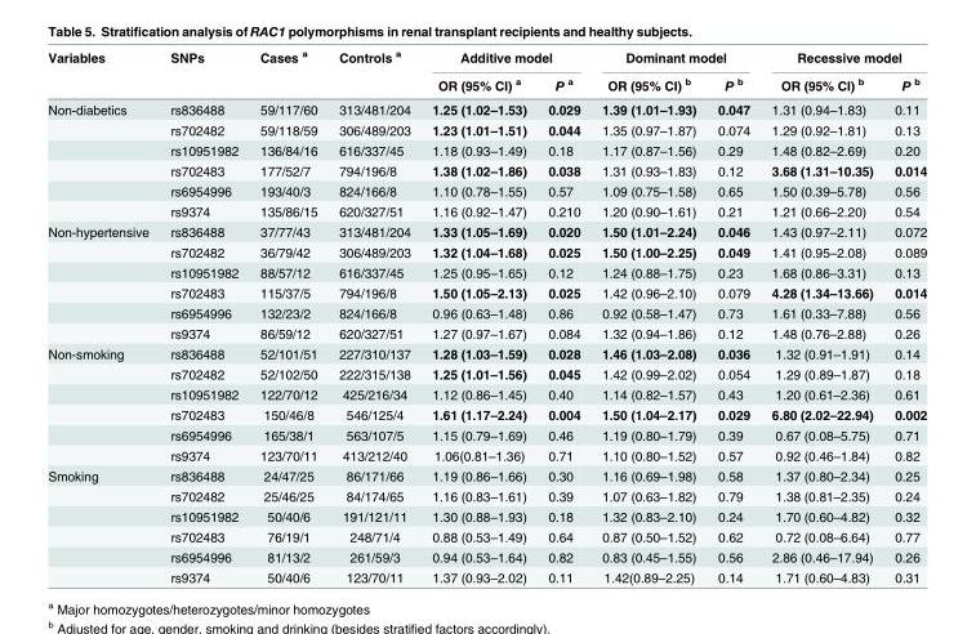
<table><thead><tr><td rowspan="2">Variables</td><td rowspan="2">SNPs</td><td rowspan="2">Cases <sup>a</sup></td><td rowspan="2">Controls <sup>a</sup></td><td colspan="2">Additive model</td><td colspan="2">Dominant model</td><td colspan="2">Recessive model</td></tr><tr><td>OR (95% CI) <sup>a</sup></td><td>P <sup>a</sup></td><td>OR (95% CI) <sup>b</sup></td><td>P <sup>b</sup></td><td>OR (95% CI) <sup>b</sup></td><td>P <sup>b</sup></td></tr></thead><tbody><tr><td rowspan="6">Non-diabetics</td><td>rs836488</td><td>59/117/60</td><td>313/481/204</td><td>1.25 (1.02–1.53)</td><td>0.029</td><td>1.39 (1.01–1.93)</td><td>0.047</td><td>1.31 (0.94–1.83)</td><td>0.11</td></tr><tr><td>rs702482</td><td>59/118/59</td><td>306/489/203</td><td>1.23 (1.01–1.51)</td><td>0.044</td><td>1.35 (0.97–1.87)</td><td>0.074</td><td>1.29 (0.92–1.81)</td><td>0.13</td></tr><tr><td>rs10951982</td><td>136/84/16</td><td>616/337/45</td><td>1.18 (0.93–1.49)</td><td>0.18</td><td>1.17 (0.87–1.56)</td><td>0.29</td><td>1.48 (0.82–2.69)</td><td>0.20</td></tr><tr><td>rs702483</td><td>177/52/7</td><td>794/196/8</td><td>1.38 (1.02–1.86)</td><td>0.038</td><td>1.31 (0.93–1.83)</td><td>0.12</td><td>3.68 (1.31–10.35)</td><td>0.014</td></tr><tr><td>rs6954996</td><td>193/40/3</td><td>824/166/8</td><td>1.10 (0.78–1.55)</td><td>0.57</td><td>1.09 (0.75–1.58)</td><td>0.65</td><td>1.50 (0.39–5.78)</td><td>0.56</td></tr><tr><td>rs9374</td><td>135/86/15</td><td>620/327/51</td><td>1.16 (0.92–1.47)</td><td>0.210</td><td>1.20 (0.90–1.61)</td><td>0.21</td><td>1.21 (0.66–2.20)</td><td>0.54</td></tr><tr><td rowspan="6">Non-hypertensive</td><td>rs836488</td><td>37/77/43</td><td>313/481/204</td><td>1.33 (1.05–1.69)</td><td>0.020</td><td>1.50 (1.01–2.24)</td><td>0.046</td><td>1.43 (0.97–2.11)</td><td>0.072</td></tr><tr><td>rs702482</td><td>36/79/42</td><td>306/489/203</td><td>1.32 (1.04–1.68)</td><td>0.025</td><td>1.50 (1.00–2.25)</td><td>0.049</td><td>1.41 (0.95–2.08)</td><td>0.089</td></tr><tr><td>rs10951982</td><td>88/57/12</td><td>616/337/45</td><td>1.25 (0.95–1.65)</td><td>0.12</td><td>1.24 (0.88–1.75)</td><td>0.23</td><td>1.68 (0.86–3.31)</td><td>0.13</td></tr><tr><td>rs702483</td><td>115/37/5</td><td>794/196/8</td><td>1.50 (1.05–2.13)</td><td>0.025</td><td>1.42 (0.96–2.10)</td><td>0.079</td><td>4.28 (1.34–13.66)</td><td>0.014</td></tr><tr><td>rs6954996</td><td>132/23/2</td><td>824/166/8</td><td>0.96 (0.63–1.48)</td><td>0.86</td><td>0.92 (0.58–1.47)</td><td>0.73</td><td>1.61 (0.33–7.88)</td><td>0.56</td></tr><tr><td>rs9374</td><td>86/59/12</td><td>620/327/51</td><td>1.27 (0.97–1.67)</td><td>0.084</td><td>1.32 (0.94–1.86)</td><td>0.12</td><td>1.48 (0.76–2.88)</td><td>0.26</td></tr><tr><td rowspan="6">Non-smoking</td><td>rs836488</td><td>52/101/51</td><td>227/310/137</td><td>1.28 (1.03–1.59)</td><td>0.028</td><td>1.46 (1.03–2.08)</td><td>0.036</td><td>1.32 (0.91–1.91)</td><td>0.14</td></tr><tr><td>rs702482</td><td>52/102/50</td><td>222/315/138</td><td>1.25 (1.01–1.56)</td><td>0.045</td><td>1.42 (0.99–2.02)</td><td>0.054</td><td>1.29 (0.89–1.87)</td><td>0.18</td></tr><tr><td>rs10951982</td><td>122/70/12</td><td>425/216/34</td><td>1.12 (0.86–1.45)</td><td>0.40</td><td>1.14 (0.82–1.57)</td><td>0.43</td><td>1.20 (0.61–2.36)</td><td>0.61</td></tr><tr><td>rs702483</td><td>150/46/8</td><td>546/125/4</td><td>1.61 (1.17–2.24)</td><td>0.004</td><td>1.50 (1.04–2.17)</td><td>0.029</td><td>6.80 (2.02–22.94)</td><td>0.002</td></tr><tr><td>rs6954996</td><td>165/38/1</td><td>563/107/5</td><td>1.15 (0.79–1.69)</td><td>0.46</td><td>1.19 (0.80–1.79)</td><td>0.39</td><td>0.67 (0.08–5.75)</td><td>0.71</td></tr><tr><td>rs9374</td><td>123/70/11</td><td>413/212/40</td><td>1.06(0.81–1.36)</td><td>0.71</td><td>1.10 (0.80–1.52)</td><td>0.57</td><td>0.92 (0.46–1.84)</td><td>0.82</td></tr><tr><td rowspan="6">Smoking</td><td>rs836488</td><td>24/47/25</td><td>86/171/66</td><td>1.19 (0.86–1.66)</td><td>0.30</td><td>1.16 (0.69–1.98)</td><td>0.58</td><td>1.37 (0.80–2.34)</td><td>0.25</td></tr><tr><td>rs702482</td><td>25/46/25</td><td>84/174/65</td><td>1.16 (0.83–1.61)</td><td>0.39</td><td>1.07 (0.63–1.82)</td><td>0.79</td><td>1.38 (0.81–2.35)</td><td>0.24</td></tr><tr><td>rs10951982</td><td>50/40/6</td><td>191/121/11</td><td>1.30 (0.88–1.93)</td><td>0.18</td><td>1.32 (0.83–2.10)</td><td>0.24</td><td>1.70 (0.60–4.82)</td><td>0.32</td></tr><tr><td>rs702483</td><td>76/19/1</td><td>248/71/4</td><td>0.88 (0.53–1.49)</td><td>0.64</td><td>0.87 (0.50–1.52)</td><td>0.62</td><td>0.72 (0.08–6.64)</td><td>0.77</td></tr><tr><td>rs6954996</td><td>81/13/2</td><td>261/59/3</td><td>0.94 (0.53–1.64)</td><td>0.82</td><td>0.83 (0.45–1.55)</td><td>0.56</td><td>2.86 (0.46–17.94)</td><td>0.26</td></tr><tr><td>rs9374</td><td>50/40/6</td><td>123/70/11</td><td>1.37 (0.93–2.02)</td><td>0.11</td><td>1.42(0.89–2.25)</td><td>0.14</td><td>1.71 (0.60–4.83)</td><td>0.31</td></tr></tbody></table>